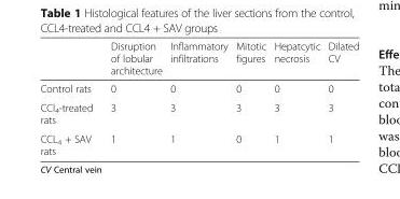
<table><thead><tr><td></td><td>Disruption of lobular architecture</td><td>Inflammatory infiltrations</td><td>Mitotic figures</td><td>Hepatcytic necrosis</td><td>Dilated CV</td></tr></thead><tbody><tr><td>Control rats</td><td>0</td><td>0</td><td>0</td><td>0</td><td>0</td></tr><tr><td>CCl<sub>4</sub>-treated rats</td><td>3</td><td>3</td><td>3</td><td>3</td><td>3</td></tr><tr><td>CCL<sub>4</sub> + SAV rats</td><td>1</td><td>1</td><td>0</td><td>1</td><td>1</td></tr></tbody></table>